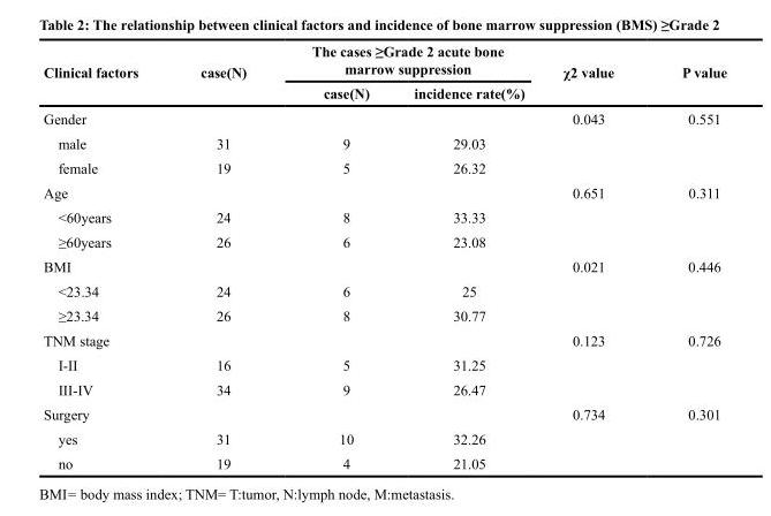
<table><thead><tr><td rowspan="2">Clinical factors</td><td rowspan="2">case(N)</td><td colspan="2">The cases ≥Grade 2 acute bone marrow suppression</td><td rowspan="2">χ<sup>2</sup> value</td><td rowspan="2">P value</td></tr><tr><td>case(N)</td><td>incidence rate(%)</td></tr></thead><tbody><tr><td>Gender</td><td></td><td></td><td></td><td>0.043</td><td>0.551</td></tr><tr><td>male</td><td>31</td><td>9</td><td>29.03</td><td></td><td></td></tr><tr><td>female</td><td>19</td><td>5</td><td>26.32</td><td></td><td></td></tr><tr><td>Age</td><td></td><td></td><td></td><td>0.651</td><td>0.311</td></tr><tr><td>&lt;60years</td><td>24</td><td>8</td><td>33.33</td><td></td><td></td></tr><tr><td>≥60years</td><td>26</td><td>6</td><td>23.08</td><td></td><td></td></tr><tr><td>BMI</td><td></td><td></td><td></td><td>0.021</td><td>0.446</td></tr><tr><td>&lt;23.34</td><td>24</td><td>6</td><td>25</td><td></td><td></td></tr><tr><td>≥23.34</td><td>26</td><td>8</td><td>30.77</td><td></td><td></td></tr><tr><td>TNM stage</td><td></td><td></td><td></td><td>0.123</td><td>0.726</td></tr><tr><td>I-II</td><td>16</td><td>5</td><td>31.25</td><td></td><td></td></tr><tr><td>III-IV</td><td>34</td><td>9</td><td>26.47</td><td></td><td></td></tr><tr><td>Surgery</td><td></td><td></td><td></td><td>0.734</td><td>0.301</td></tr><tr><td>yes</td><td>31</td><td>10</td><td>32.26</td><td></td><td></td></tr><tr><td>no</td><td>19</td><td>4</td><td>21.05</td><td></td><td></td></tr></tbody></table>